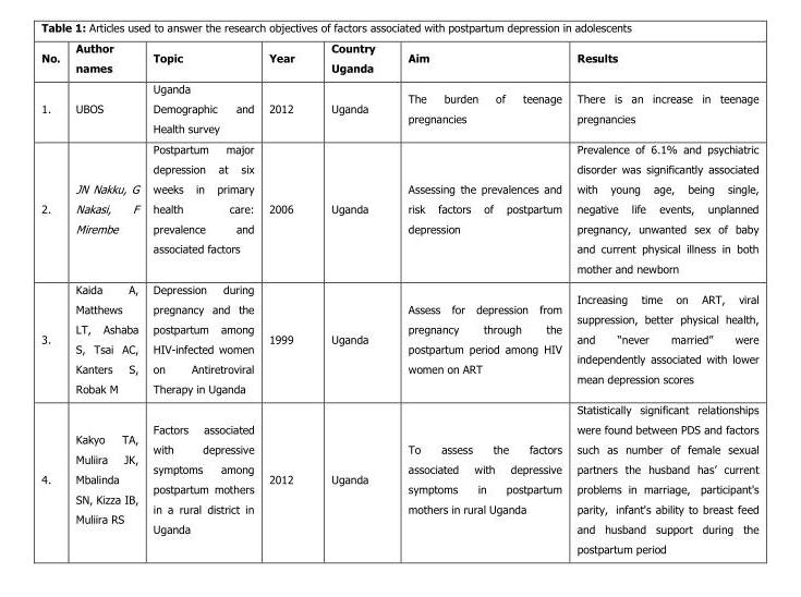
<table><thead><tr><td>No.</td><td>Author names</td><td>Topic</td><td>Year</td><td>Country Uganda</td><td>Aim</td><td>Results</td></tr></thead><tbody><tr><td>1.</td><td>UBOS</td><td>Uganda Demographic and Health survey</td><td>2012</td><td>Uganda</td><td>The burden of teenage pregnancies</td><td>There is an increase in teenage pregnancies</td></tr><tr><td>2.</td><td>JN Nakku, G Nakasi, F Mirembe</td><td>Postpartum major depression at six weeks in primary health care: prevalence and associated factors</td><td>2006</td><td>Uganda</td><td>Assessing the prevalences and risk factors of postpartum depression</td><td>Prevalence of 6.1% and psychiatric disorder was significantly associated with young age, being single, negative life events, unplanned pregnancy, unwanted sex of baby and current physical illness in both mother and newborn</td></tr><tr><td>3.</td><td>Kaida A, Matthews LT, Ashaba S, Tsai AC, Kanters S, Robak M</td><td>Depression during pregnancy and the postpartum among HIV-infected women on Antiretroviral Therapy in Uganda</td><td>1999</td><td>Uganda</td><td>Assess for depression from pregnancy through the postpartum period among HIV women on ART</td><td>Increasing time on ART, viral suppression, better physical health, and “never married” were independently associated with lower mean depression scores</td></tr><tr><td>4.</td><td>Kakyo TA, Muliira JK, Mbalinda SN, Kizza IB, Muliira RS</td><td>Factors associated with depressive symptoms among postpartum mothers in a rural district in Uganda</td><td>2012</td><td>Uganda</td><td>To assess the factors associated with depressive symptoms in postpartum mothers in rural Uganda</td><td>Statistically significant relationships were found between PDS and factors such as number of female sexual partners the husband has’ current problems in marriage, participant&#x27;s parity, infant&#x27;s ability to breast feed and husband support during the postpartum period</td></tr></tbody></table>